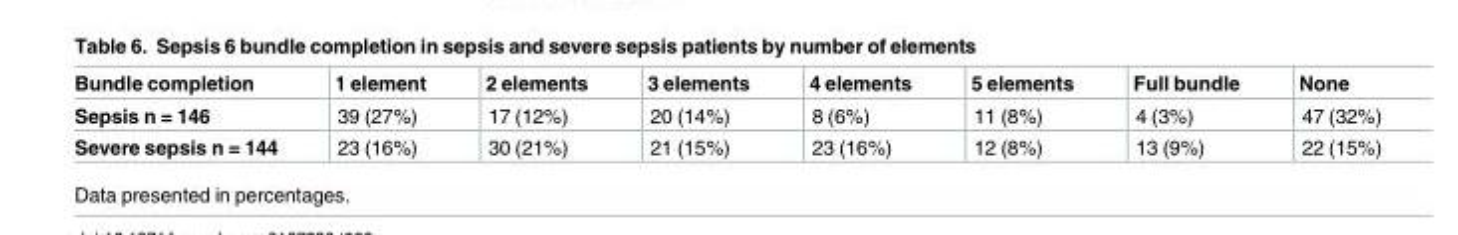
<table><thead><tr><td>Bundle completion</td><td>1 element</td><td>2 elements</td><td>3 elements</td><td>4 elements</td><td>5 elements</td><td>Full bundle</td><td>None</td></tr></thead><tbody><tr><td>Sepsis n = 146</td><td>39 (27%)</td><td>17 (12%)</td><td>20 (14%)</td><td>8 (6%)</td><td>11 (8%)</td><td>4 (3%)</td><td>47 (32%)</td></tr><tr><td>Severe sepsis n = 144</td><td>23 (16%)</td><td>30 (21%)</td><td>21 (15%)</td><td>23 (16%)</td><td>12 (8%)</td><td>13 (9%)</td><td>22 (15%)</td></tr></tbody></table>